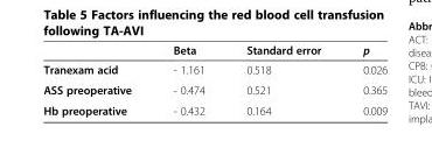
<table><thead><tr><td></td><td>Beta</td><td>Standard error</td><td>p</td></tr></thead><tbody><tr><td>Tranexam acid</td><td>- 1.161</td><td>0.518</td><td>0.026</td></tr><tr><td>ASS preoperative</td><td>- 0.474</td><td>0.521</td><td>0.365</td></tr><tr><td>Hb preoperative</td><td>- 0.432</td><td>0.164</td><td>0.009</td></tr></tbody></table>